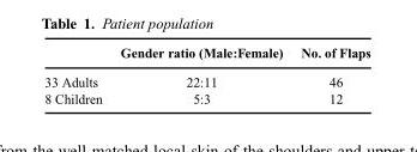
<table><thead><tr><td></td><td>Gender ratio (Male:Female)</td><td>No. of Flaps</td></tr></thead><tbody><tr><td>33 Adults</td><td>22:11</td><td>46</td></tr><tr><td>8 Children</td><td>5:3</td><td>12</td></tr></tbody></table>